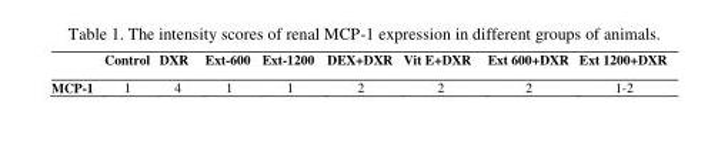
<table><thead><tr><td></td><td>Control</td><td>DXR</td><td>Ext-600</td><td>Ext-1200</td><td>DEX+DXR</td><td>Vit E+DXR</td><td>Ext 600+DXR</td><td>Ext 1200+DXR</td></tr></thead><tbody><tr><td>MCP-1</td><td>1</td><td>4</td><td>1</td><td>1</td><td>2</td><td>2</td><td>2</td><td>1-2</td></tr></tbody></table>